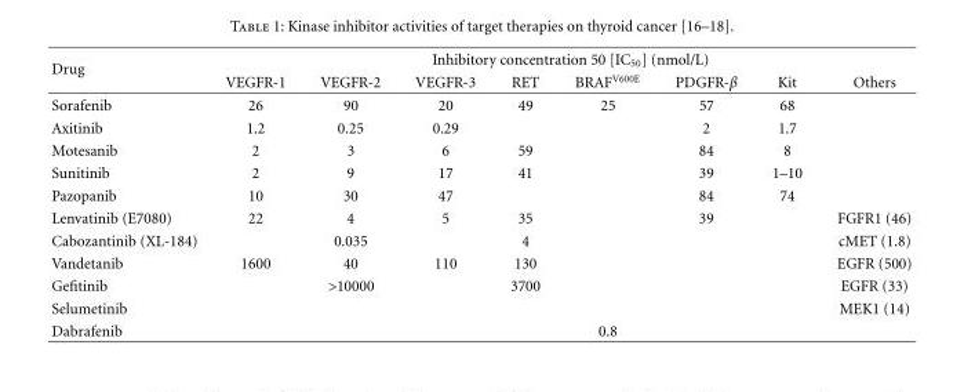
<table><thead><tr><td rowspan="2">Drug</td><td colspan="8">Inhibitory concentration 50 [IC<sub>50</sub>] (nmol/L)</td></tr><tr><td>VEGFR-1</td><td>VEGFR-2</td><td>VEGFR-3</td><td>RET</td><td>BRAF<sup>V600E</sup></td><td>PDGFR-β</td><td>Kit</td><td>Others</td></tr></thead><tbody><tr><td>Sorafenib</td><td>26</td><td>90</td><td>20</td><td>49</td><td>25</td><td>57</td><td>68</td><td></td></tr><tr><td>Axitinib</td><td>1.2</td><td>0.25</td><td>0.29</td><td></td><td></td><td>2</td><td>1.7</td><td></td></tr><tr><td>Motesanib</td><td>2</td><td>3</td><td>6</td><td>59</td><td></td><td>84</td><td>8</td><td></td></tr><tr><td>Sunitinib</td><td>2</td><td>9</td><td>17</td><td>41</td><td></td><td>39</td><td>1–10</td><td></td></tr><tr><td>Pazopanib</td><td>10</td><td>30</td><td>47</td><td></td><td></td><td>84</td><td>74</td><td></td></tr><tr><td>Lenvatinib (E7080)</td><td>22</td><td>4</td><td>5</td><td>35</td><td></td><td>39</td><td></td><td>FGFR1 (46)</td></tr><tr><td>Cabozantinib (XL-184)</td><td></td><td>0.035</td><td></td><td>4</td><td></td><td></td><td></td><td>cMET (1.8)</td></tr><tr><td>Vandetanib</td><td>1600</td><td>40</td><td>110</td><td>130</td><td></td><td></td><td></td><td>EGFR (500)</td></tr><tr><td>Gefitinib</td><td></td><td>&gt;10000</td><td></td><td>3700</td><td></td><td></td><td></td><td>EGFR (33)</td></tr><tr><td>Selumetinib</td><td></td><td></td><td></td><td></td><td></td><td></td><td></td><td>MEK1 (14)</td></tr><tr><td>Dabrafenib</td><td></td><td></td><td></td><td></td><td>0.8</td><td></td><td></td><td></td></tr></tbody></table>